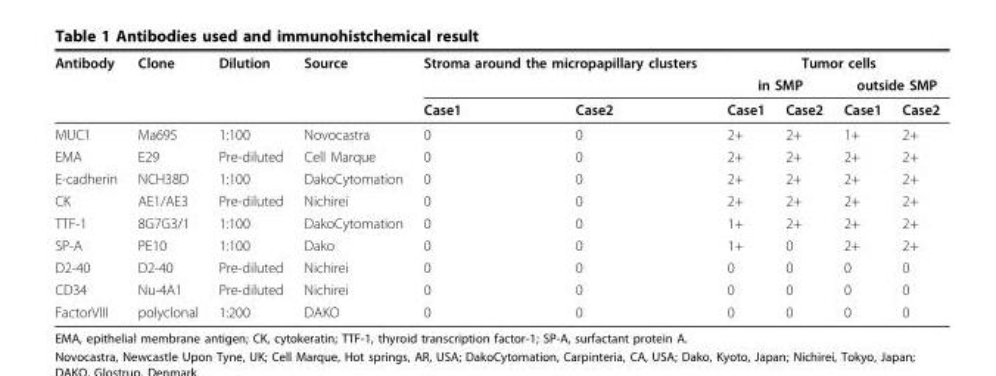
<table><tbody><tr><td rowspan="3">Antibody</td><td>Clone</td><td>Dilution</td><td>Source</td><td colspan="2">Stroma around the micropapillary clusters</td><td colspan="4">Tumor cells</td></tr><tr><td></td><td></td><td></td><td></td><td></td><td colspan="2">in SMP</td><td colspan="2">outside SMP</td></tr><tr><td></td><td></td><td></td><td>Case1</td><td>Case2</td><td>Case1</td><td>Case2</td><td>Case1</td><td>Case2</td></tr><tr><td>MUC1</td><td>Ma695</td><td>1:100</td><td>Novocastra</td><td>0</td><td>0</td><td>2+</td><td>2+</td><td>1+</td><td>2+</td></tr><tr><td>EMA</td><td>E29</td><td>Pre-diluted</td><td>Cell Marque</td><td>0</td><td>0</td><td>2+</td><td>2+</td><td>2+</td><td>2+</td></tr><tr><td>E-cadherin</td><td>NCH38D</td><td>1:100</td><td>DakoCytomation</td><td>0</td><td>0</td><td>2+</td><td>2+</td><td>2+</td><td>2+</td></tr><tr><td>CK</td><td>AE1/AE3</td><td>Pre-diluted</td><td>Nichirei</td><td>0</td><td>0</td><td>2+</td><td>2+</td><td>2+</td><td>2+</td></tr><tr><td>TTF-1</td><td>8G7G3/1</td><td>1:100</td><td>DakoCytomation</td><td>0</td><td>0</td><td>1+</td><td>2+</td><td>2+</td><td>2+</td></tr><tr><td>SP-A</td><td>PE10</td><td>1:100</td><td>Dako</td><td>0</td><td>0</td><td>1+</td><td>0</td><td>2+</td><td>2+</td></tr><tr><td>D2-40</td><td>D2-40</td><td>Pre-diluted</td><td>Nichirei</td><td>0</td><td>0</td><td>0</td><td>0</td><td>0</td><td>0</td></tr><tr><td>CD34</td><td>Nu-4A1</td><td>Pre-diluted</td><td>Nichirei</td><td>0</td><td>0</td><td>0</td><td>0</td><td>0</td><td>0</td></tr><tr><td>FactorVIII</td><td>polyclonal</td><td>1:200</td><td>DAKO</td><td>0</td><td>0</td><td>0</td><td>0</td><td>0</td><td>0</td></tr></tbody></table>